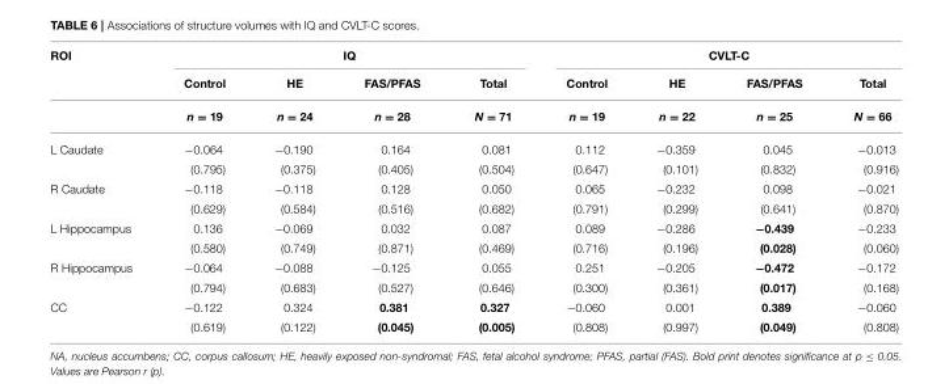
<table><thead><tr><td rowspan="3">ROI</td><td colspan="4">IQ</td><td colspan="4">CVLT-C</td></tr><tr><td rowspan="2">Control n = 19</td><td rowspan="2">HE n = 24</td><td rowspan="2">FAS/PFAS n = 28</td><td rowspan="2">Total N = 71</td><td rowspan="2">Control n = 19</td><td rowspan="2">HE n = 22</td><td rowspan="2">FAS/PFAS n = 25</td><td rowspan="2">Total N = 66</td></tr><tr></tr></thead><tbody><tr><td rowspan="2">L Caudate</td><td>−0.064</td><td>−0.190</td><td>0.164</td><td>0.081</td><td>0.112</td><td>−0.359</td><td>0.045</td><td>−0.013</td></tr><tr><td>(0.795)</td><td>(0.375)</td><td>(0.405)</td><td>(0.504)</td><td>(0.647)</td><td>(0.101)</td><td>(0.832)</td><td>(0.916)</td></tr><tr><td rowspan="2">R Caudate</td><td>−0.118</td><td>−0.118</td><td>0.128</td><td>0.050</td><td>0.065</td><td>−0.232</td><td>0.098</td><td>−0.021</td></tr><tr><td>(0.629)</td><td>(0.584)</td><td>(0.516)</td><td>(0.682)</td><td>(0.791)</td><td>(0.299)</td><td>(0.641)</td><td>(0.870)</td></tr><tr><td rowspan="2">L Hippocampus</td><td>0.136</td><td>−0.069</td><td>0.032</td><td>0.087</td><td>0.089</td><td>−0.286</td><td>−0.439</td><td>−0.233</td></tr><tr><td>(0.580)</td><td>(0.749)</td><td>(0.871)</td><td>(0.469)</td><td>(0.716)</td><td>(0.196)</td><td>(0.028)</td><td>(0.060)</td></tr><tr><td rowspan="2">R Hippocampus</td><td>−0.064</td><td>−0.088</td><td>−0.125</td><td>0.055</td><td>0.251</td><td>−0.205</td><td>−0.472</td><td>−0.172</td></tr><tr><td>(0.794)</td><td>(0.683)</td><td>(0.527)</td><td>(0.646)</td><td>(0.300)</td><td>(0.361)</td><td>(0.017)</td><td>(0.168)</td></tr><tr><td rowspan="2">CC</td><td>−0.122</td><td>0.324</td><td>0.381</td><td>0.327</td><td>−0.060</td><td>0.001</td><td>0.389</td><td>−0.060</td></tr><tr><td>(0.619)</td><td>(0.122)</td><td>(0.045)</td><td>(0.005)</td><td>(0.808)</td><td>(0.997)</td><td>(0.049)</td><td>(0.808)</td></tr></tbody></table>